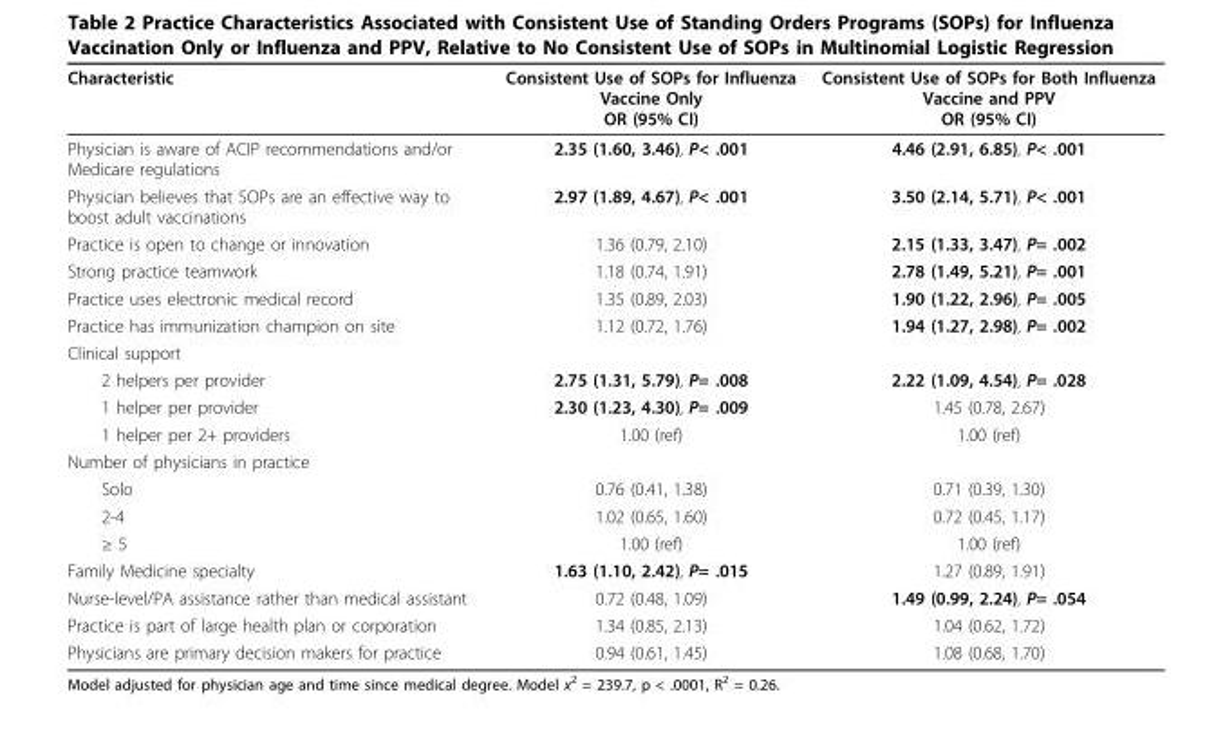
<table><thead><tr><td>Characteristic</td><td>Consistent Use of SOPs for Influenza Vaccine Only OR (95% CI)</td><td>Consistent Use of SOPs for Both Influenza Vaccine and PPV OR (95% CI)</td></tr></thead><tbody><tr><td>Physician is aware of ACIP recommendations and/or Medicare regulations</td><td>2.35 (1.60, 3.46), P&lt; .001</td><td>4.46 (2.91, 6.85), P&lt; .001</td></tr><tr><td>Physician believes that SOPs are an effective way to boost adult vaccinations</td><td>2.97 (1.89, 4.67), P&lt; .001</td><td>3.50 (2.14, 5.71), P&lt; .001</td></tr><tr><td>Practice is open to change or innovation</td><td>1.36 (0.79, 2.10)</td><td>2.15 (1.33, 3.47), P= .002</td></tr><tr><td>Strong practice teamwork</td><td>1.18 (0.74, 1.91)</td><td>2.78 (1.49, 5.21), P= .001</td></tr><tr><td>Practice uses electronic medical record</td><td>1.35 (0.89, 2.03)</td><td>1.90 (1.22, 2.96), P= .005</td></tr><tr><td>Practice has immunization champion on site</td><td>1.12 (0.72, 1.76)</td><td>1.94 (1.27, 2.98), P= .002</td></tr><tr><td colspan="3">Clinical support</td></tr><tr><td>2 helpers per provider</td><td>2.75 (1.31, 5.79), P= .008</td><td>2.22 (1.09, 4.54), P= .028</td></tr><tr><td>1 helper per provider</td><td>2.30 (1.23, 4.30), P= .009</td><td>1.45 (0.78, 2.67)</td></tr><tr><td>1 helper per 2+ providers</td><td>1.00 (ref)</td><td>1.00 (ref)</td></tr><tr><td colspan="3">Number of physicians in practice</td></tr><tr><td>Solo</td><td>0.76 (0.41, 1.38)</td><td>0.71 (0.39, 1.30)</td></tr><tr><td>2-4</td><td>1.02 (0.65, 1.60)</td><td>0.72 (0.45, 1.17)</td></tr><tr><td>≥ 5</td><td>1.00 (ref)</td><td>1.00 (ref)</td></tr><tr><td>Family Medicine specialty</td><td>1.63 (1.10, 2.42), P= .015</td><td>1.27 (0.89, 1.91)</td></tr><tr><td>Nurse-level/PA assistance rather than medical assistant</td><td>0.72 (0.48, 1.09)</td><td>1.49 (0.99, 2.24), P= .054</td></tr><tr><td>Practice is part of large health plan or corporation</td><td>1.34 (0.85, 2.13)</td><td>1.04 (0.62, 1.72)</td></tr><tr><td>Physicians are primary decision makers for practice</td><td>0.94 (0.61, 1.45)</td><td>1.08 (0.68, 1.70)</td></tr></tbody></table>